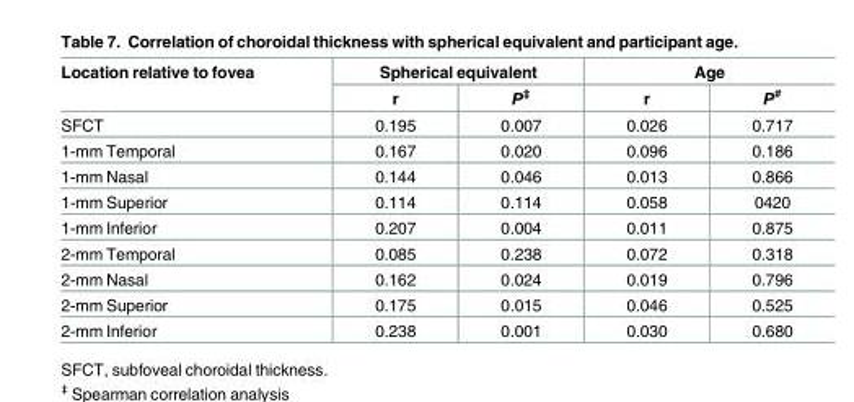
<table><thead><tr><td rowspan="2">Location relative to fovea</td><td colspan="2">Spherical equivalent</td><td colspan="2">Age</td></tr><tr><td>r</td><td>P<sup>‡</sup></td><td>r</td><td>P<sup>#</sup></td></tr></thead><tbody><tr><td>SFCT</td><td>0.195</td><td>0.007</td><td>0.026</td><td>0.717</td></tr><tr><td>1-mm Temporal</td><td>0.167</td><td>0.020</td><td>0.096</td><td>0.186</td></tr><tr><td>1-mm Nasal</td><td>0.144</td><td>0.046</td><td>0.013</td><td>0.866</td></tr><tr><td>1-mm Superior</td><td>0.114</td><td>0.114</td><td>0.058</td><td>0420</td></tr><tr><td>1-mm Inferior</td><td>0.207</td><td>0.004</td><td>0.011</td><td>0.875</td></tr><tr><td>2-mm Temporal</td><td>0.085</td><td>0.238</td><td>0.072</td><td>0.318</td></tr><tr><td>2-mm Nasal</td><td>0.162</td><td>0.024</td><td>0.019</td><td>0.796</td></tr><tr><td>2-mm Superior</td><td>0.175</td><td>0.015</td><td>0.046</td><td>0.525</td></tr><tr><td>2-mm Inferior</td><td>0.238</td><td>0.001</td><td>0.030</td><td>0.680</td></tr></tbody></table>